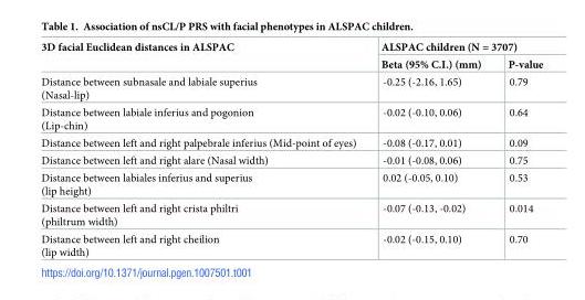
<table><thead><tr><td rowspan="2">3D facial Euclidean distances in ALSPAC</td><td colspan="2">ALSPAC children (N = 3707)</td></tr><tr><td>Beta (95% C.I.) (mm)</td><td>P-value</td></tr></thead><tbody><tr><td>Distance between subnasale and labiale superius (Nasal-lip)</td><td>-0.25 (-2.16, 1.65)</td><td>0.79</td></tr><tr><td>Distance between labiale inferius and pogonion (Lip-chin)</td><td>-0.02 (-0.10, 0.06)</td><td>0.64</td></tr><tr><td>Distance between left and right palpebrale inferius (Mid-point of eyes)</td><td>-0.08 (-0.17, 0.01)</td><td>0.09</td></tr><tr><td>Distance between left and right alare (Nasal width)</td><td>-0.01 (-0.08, 0.06)</td><td>0.75</td></tr><tr><td>Distance between labiales inferius and superius (lip height)</td><td>0.02 (-0.05, 0.10)</td><td>0.53</td></tr><tr><td>Distance between left and right crista philtri (philtrum width)</td><td>-0.07 (-0.13, -0.02)</td><td>0.014</td></tr><tr><td>Distance between left and right cheilion (lip width)</td><td>-0.02 (-0.15, 0.10)</td><td>0.70</td></tr></tbody></table>